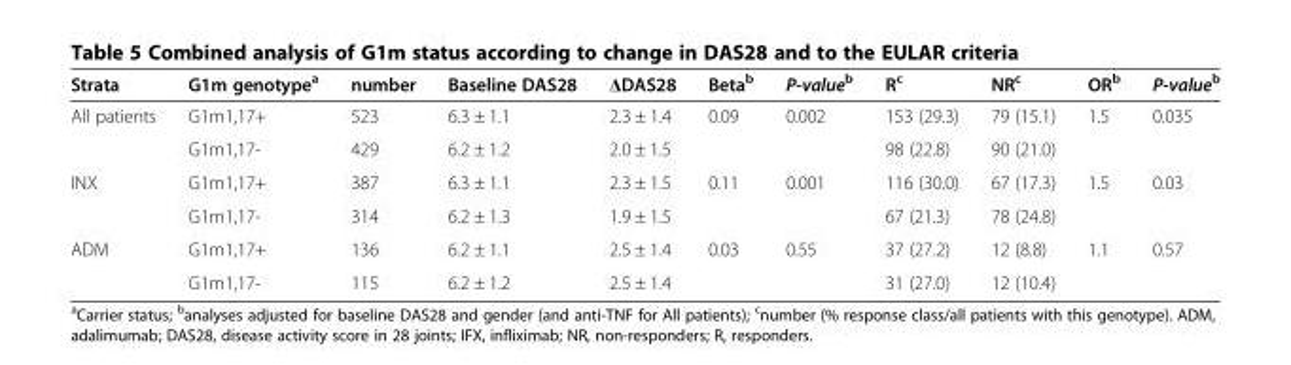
<table><thead><tr><td>Strata</td><td>G1m genotype<sup>a</sup></td><td>number</td><td>Baseline DAS28</td><td>ΔDAS28</td><td>Beta<sup>b</sup></td><td>P-value<sup>b</sup></td><td>R<sup>c</sup></td><td>NR<sup>c</sup></td><td>OR<sup>b</sup></td><td>P-value<sup>b</sup></td></tr></thead><tbody><tr><td rowspan="2">All patients</td><td>G1m1,17+</td><td>523</td><td>6.3 ± 1.1</td><td>2.3 ± 1.4</td><td>0.09</td><td>0.002</td><td>153 (29.3)</td><td>79 (15.1)</td><td>1.5</td><td>0.035</td></tr><tr><td>G1m1,17-</td><td>429</td><td>6.2 ± 1.2</td><td>2.0 ± 1.5</td><td></td><td></td><td>98 (22.8)</td><td>90 (21.0)</td><td></td><td></td></tr><tr><td rowspan="2">INX</td><td>G1m1,17+</td><td>387</td><td>6.3 ± 1.1</td><td>2.3 ± 1.5</td><td>0.11</td><td>0.001</td><td>116 (30.0)</td><td>67 (17.3)</td><td>1.5</td><td>0.03</td></tr><tr><td>G1m1,17-</td><td>314</td><td>6.2 ± 1.3</td><td>1.9 ± 1.5</td><td></td><td></td><td>67 (21.3)</td><td>78 (24.8)</td><td></td><td></td></tr><tr><td rowspan="2">ADM</td><td>G1m1,17+</td><td>136</td><td>6.2 ± 1.1</td><td>2.5 ± 1.4</td><td>0.03</td><td>0.55</td><td>37 (27.2)</td><td>12 (8.8)</td><td>1.1</td><td>0.57</td></tr><tr><td>G1m1,17-</td><td>115</td><td>6.2 ± 1.2</td><td>2.5 ± 1.4</td><td></td><td></td><td>31 (27.0)</td><td>12 (10.4)</td><td></td><td></td></tr></tbody></table>